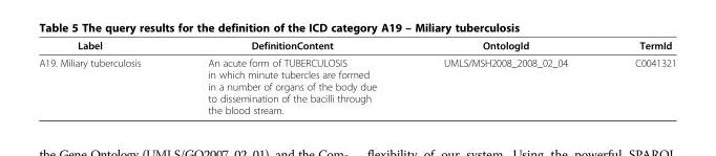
<table><thead><tr><td>Label</td><td>DefinitionContent</td><td>OntologId</td><td>TermId</td></tr></thead><tbody><tr><td>A19. Miliary tuberculosis</td><td>An acute form of TUBERCULOSIS in which minute tubercles are formed in a number of organs of the body due to dissemination of the bacilli through the blood stream.</td><td>UMLS/MSH2008_2008_02_04</td><td>C0041321</td></tr></tbody></table>